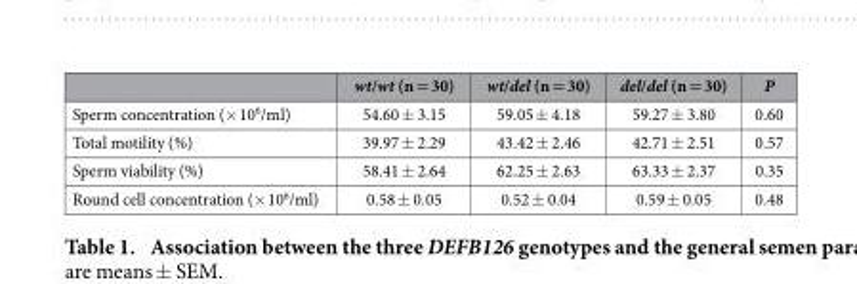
<table><thead><tr><td></td><td>wt/wt (n = 30)</td><td>wt/del (n = 30)</td><td>del/del (n = 30)</td><td>P</td></tr></thead><tbody><tr><td>Sperm concentration (× 10<sup>6</sup>/ml)</td><td>54.60 ± 3.15</td><td>59.05 ± 4.18</td><td>59.27 ± 3.80</td><td>0.60</td></tr><tr><td>Total motility (%)</td><td>39.97 ± 2.29</td><td>43.42 ± 2.46</td><td>42.71 ± 2.51</td><td>0.57</td></tr><tr><td>Sperm viability (%)</td><td>58.41 ± 2.64</td><td>62.25 ± 2.63</td><td>63.33 ± 2.37</td><td>0.35</td></tr><tr><td>Round cell concentration (× 10<sup>6</sup>/ml)</td><td>0.58 ± 0.05</td><td>0.52 ± 0.04</td><td>0.59 ± 0.05</td><td>0.48</td></tr></tbody></table>